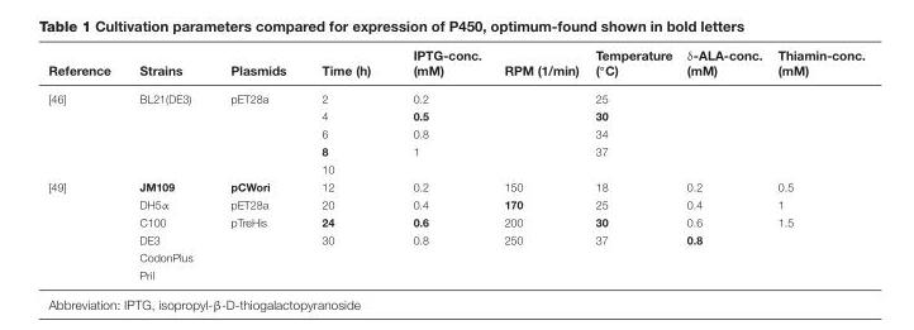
<table><thead><tr><td>Reference</td><td>Strains</td><td>Plasmids</td><td>Time (h)</td><td>IPTG-conc. (mM)</td><td>RPM (1/min)</td><td>Temperature (◦C)</td><td>δ-ALA-conc. (mM)</td><td>Thiamin-conc. (mM)</td></tr></thead><tbody><tr><td rowspan="5">[46]</td><td>BL21(DE3)</td><td>pET28a</td><td>2</td><td>0.2</td><td></td><td>25</td><td></td><td></td></tr><tr><td></td><td></td><td>4</td><td>0.5</td><td></td><td>30</td><td></td><td></td></tr><tr><td></td><td></td><td>6</td><td>0.8</td><td></td><td>34</td><td></td><td></td></tr><tr><td></td><td></td><td>8</td><td>1</td><td></td><td>37</td><td></td><td></td></tr><tr><td></td><td></td><td>10</td><td></td><td></td><td></td><td></td><td></td></tr><tr><td rowspan="6">[49]</td><td>JM109</td><td>pCWori</td><td>12</td><td>0.2</td><td>150</td><td>18</td><td>0.2</td><td>0.5</td></tr><tr><td>DH5α</td><td>pET28a</td><td>20</td><td>0.4</td><td>170</td><td>25</td><td>0.4</td><td>1</td></tr><tr><td>C100</td><td>pTreHis</td><td>24</td><td>0.6</td><td>200</td><td>30</td><td>0.6</td><td>1.5</td></tr><tr><td>DE3</td><td></td><td>30</td><td>0.8</td><td>250</td><td>37</td><td>0.8</td><td></td></tr><tr><td>CodonPlus</td><td></td><td></td><td></td><td></td><td></td><td></td><td></td></tr><tr><td>Pril</td><td></td><td></td><td></td><td></td><td></td><td></td><td></td></tr></tbody></table>